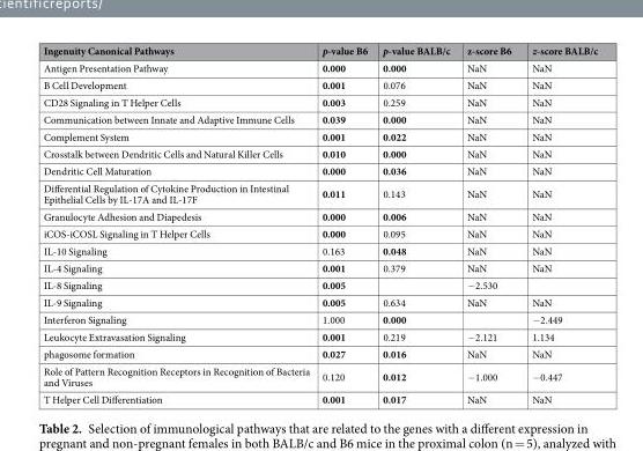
<table><thead><tr><td>Ingenuity Canonical Pathways</td><td>p-value B6</td><td>p-value BALB/c</td><td>z-score B6</td><td>z-score BALB/c</td></tr></thead><tbody><tr><td>Antigen Presentation Pathway</td><td>0.000</td><td>0.000</td><td>NaN</td><td>NaN</td></tr><tr><td>B Cell Development</td><td>0.001</td><td>0.076</td><td>NaN</td><td>NaN</td></tr><tr><td>CD28 Signaling in T Helper Cells</td><td>0.003</td><td>0.259</td><td>NaN</td><td>NaN</td></tr><tr><td>Communication between Innate and Adaptive Immune Cells</td><td>0.039</td><td>0.000</td><td>NaN</td><td>NaN</td></tr><tr><td>Complement System</td><td>0.001</td><td>0.022</td><td>NaN</td><td>NaN</td></tr><tr><td>Crosstalk between Dendritic Cells and Natural Killer Cells</td><td>0.010</td><td>0.000</td><td>NaN</td><td>NaN</td></tr><tr><td>Dendritic Cell Maturation</td><td>0.000</td><td>0.036</td><td>NaN</td><td>NaN</td></tr><tr><td>Differential Regulation of Cytokine Production in Intestinal Epithelial Cells by IL-17A and IL-17F</td><td>0.011</td><td>0.143</td><td>NaN</td><td>NaN</td></tr><tr><td>Granulocyte Adhesion and Diapedesis</td><td>0.000</td><td>0.006</td><td>NaN</td><td>NaN</td></tr><tr><td>iCOS-iCOSL Signaling in T Helper Cells</td><td>0.000</td><td>0.095</td><td>NaN</td><td>NaN</td></tr><tr><td>IL-10 Signaling</td><td>0.163</td><td>0.048</td><td>NaN</td><td>NaN</td></tr><tr><td>IL-4 Signaling</td><td>0.001</td><td>0.379</td><td>NaN</td><td>NaN</td></tr><tr><td>IL-8 Signaling</td><td>0.005</td><td></td><td>−2.530</td><td></td></tr><tr><td>IL-9 Signaling</td><td>0.005</td><td>0.634</td><td>NaN</td><td>NaN</td></tr><tr><td>Interferon Signaling</td><td>1.000</td><td>0.000</td><td></td><td>−2.449</td></tr><tr><td>Leukocyte Extravasation Signaling</td><td>0.001</td><td>0.219</td><td>−2.121</td><td>1.134</td></tr><tr><td>phagosome formation</td><td>0.027</td><td>0.016</td><td>NaN</td><td>NaN</td></tr><tr><td>Role of Pattern Recognition Receptors in Recognition of Bacteria and Viruses</td><td>0.120</td><td>0.012</td><td>−1.000</td><td>−0.447</td></tr><tr><td>T Helper Cell Differentiation</td><td>0.001</td><td>0.017</td><td>NaN</td><td>NaN</td></tr></tbody></table>